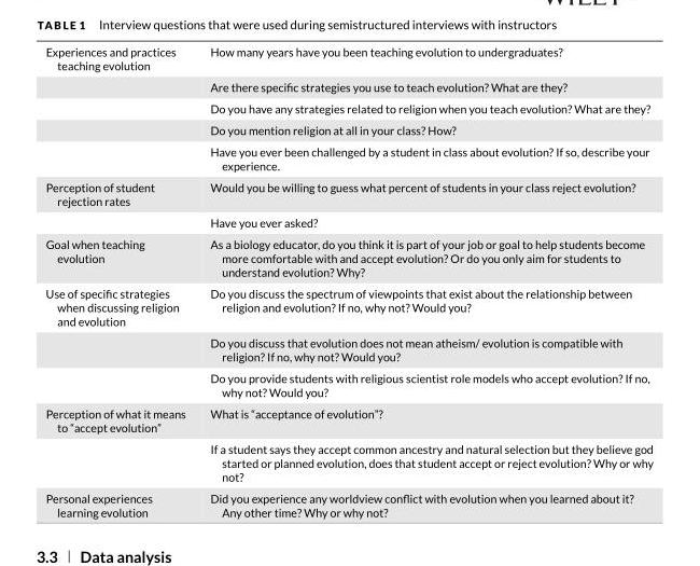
<table><tbody><tr><td rowspan="5">Experiences and practices teaching evolution</td><td>How many years have you been teaching evolution to undergraduates?</td></tr><tr><td>Are there specific strategies you use to teach evolution? What are they?</td></tr><tr><td>Do you have any strategies related to religion when you teach evolution? What are they?</td></tr><tr><td>Do you mention religion at all in your class? How?</td></tr><tr><td>Have you ever been challenged by a student in class about evolution? If so, describe your experience.</td></tr><tr><td rowspan="2">Perception of student rejection rates</td><td>Would you be willing to guess what percent of students in your class reject evolution?</td></tr><tr><td>Have you ever asked?</td></tr><tr><td>Goal when teaching evolution</td><td>As a biology educator, do you think it is part of your job or goal to help students become more comfortable with and accept evolution? Or do you only aim for students to understand evolution? Why?</td></tr><tr><td rowspan="3">Use of specific strategies when discussing religion and evolution</td><td>Do you discuss the spectrum of viewpoints that exist about the relationship between religion and evolution? If no, why not? Would you?</td></tr><tr><td>Do you discuss that evolution does not mean atheism/ evolution is compatible with religion? If no, why not? Would you?</td></tr><tr><td>Do you provide students with religious scientist role models who accept evolution? If no, why not? Would you?</td></tr><tr><td rowspan="2">Perception of what it means to “accept evolution”</td><td>What is “acceptance of evolution”?</td></tr><tr><td>If a student says they accept common ancestry and natural selection but they believe god started or planned evolution, does that student accept or reject evolution? Why or why not?</td></tr><tr><td>Personal experiences learning evolution</td><td>Did you experience any worldview conflict with evolution when you learned about it? Any other time? Why or why not?</td></tr></tbody></table>